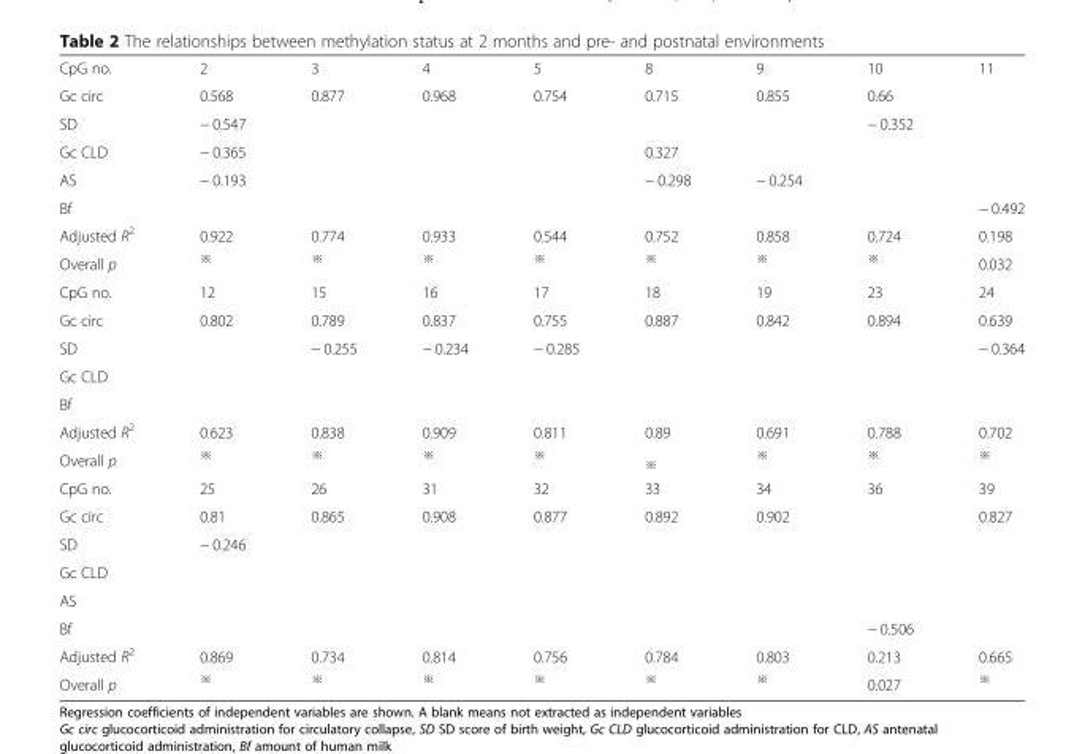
<table><tbody><tr><td>CpG no.</td><td>2</td><td>3</td><td>4</td><td>5</td><td>8</td><td>9</td><td>10</td><td>11</td></tr><tr><td>Gc circ</td><td>0.568</td><td>0.877</td><td>0.968</td><td>0.754</td><td>0.715</td><td>0.855</td><td>0.66</td><td></td></tr><tr><td>SD</td><td>− 0.547</td><td></td><td></td><td></td><td></td><td></td><td>− 0.352</td><td></td></tr><tr><td>Gc CLD</td><td>− 0.365</td><td></td><td></td><td></td><td>0.327</td><td></td><td></td><td></td></tr><tr><td>AS</td><td>− 0.193</td><td></td><td></td><td></td><td>− 0.298</td><td>− 0.254</td><td></td><td></td></tr><tr><td>Bf</td><td></td><td></td><td></td><td></td><td></td><td></td><td></td><td>− 0.492</td></tr><tr><td>Adjusted R<sup>2</sup></td><td>0.922</td><td>0.774</td><td>0.933</td><td>0.544</td><td>0.752</td><td>0.858</td><td>0.724</td><td>0.198</td></tr><tr><td>Overall p</td><td><sup>※</sup></td><td><sup>※</sup></td><td><sup>※</sup></td><td><sup>※</sup></td><td><sup>※</sup></td><td><sup>※</sup></td><td><sup>※</sup></td><td>0.032</td></tr><tr><td>CpG no.</td><td>12</td><td>15</td><td>16</td><td>17</td><td>18</td><td>19</td><td>23</td><td>24</td></tr><tr><td>Gc circ</td><td>0.802</td><td>0.789</td><td>0.837</td><td>0.755</td><td>0.887</td><td>0.842</td><td>0.894</td><td>0.639</td></tr><tr><td>SD</td><td></td><td>− 0.255</td><td>− 0.234</td><td>− 0.285</td><td></td><td></td><td></td><td>− 0.364</td></tr><tr><td colspan="9">Gc CLD</td></tr><tr><td colspan="9">Bf</td></tr><tr><td>Adjusted R<sup>2</sup></td><td>0.623</td><td>0.838</td><td>0.909</td><td>0.811</td><td>0.89</td><td>0.691</td><td>0.788</td><td>0.702</td></tr><tr><td>Overall p</td><td><sup>※</sup></td><td><sup>※</sup></td><td><sup>※</sup></td><td><sup>※</sup></td><td><sub>※</sub></td><td><sup>※</sup></td><td><sup>※</sup></td><td><sup>※</sup></td></tr><tr><td>CpG no.</td><td>25</td><td>26</td><td>31</td><td>32</td><td>33</td><td>34</td><td>36</td><td>39</td></tr><tr><td>Gc circ</td><td>0.81</td><td>0.865</td><td>0.908</td><td>0.877</td><td>0.892</td><td>0.902</td><td></td><td>0.827</td></tr><tr><td>SD</td><td>− 0.246</td><td></td><td></td><td></td><td></td><td></td><td></td><td></td></tr><tr><td colspan="9">Gc CLD</td></tr><tr><td colspan="9">AS</td></tr><tr><td>Bf</td><td></td><td></td><td></td><td></td><td></td><td></td><td>− 0.506</td><td></td></tr><tr><td>Adjusted R<sup>2</sup></td><td>0.869</td><td>0.734</td><td>0.814</td><td>0.756</td><td>0.784</td><td>0.803</td><td>0.213</td><td>0.665</td></tr><tr><td>Overall p</td><td><sup>※</sup></td><td><sup>※</sup></td><td><sup>※</sup></td><td><sup>※</sup></td><td><sup>※</sup></td><td><sup>※</sup></td><td>0.027</td><td><sup>※</sup></td></tr></tbody></table>